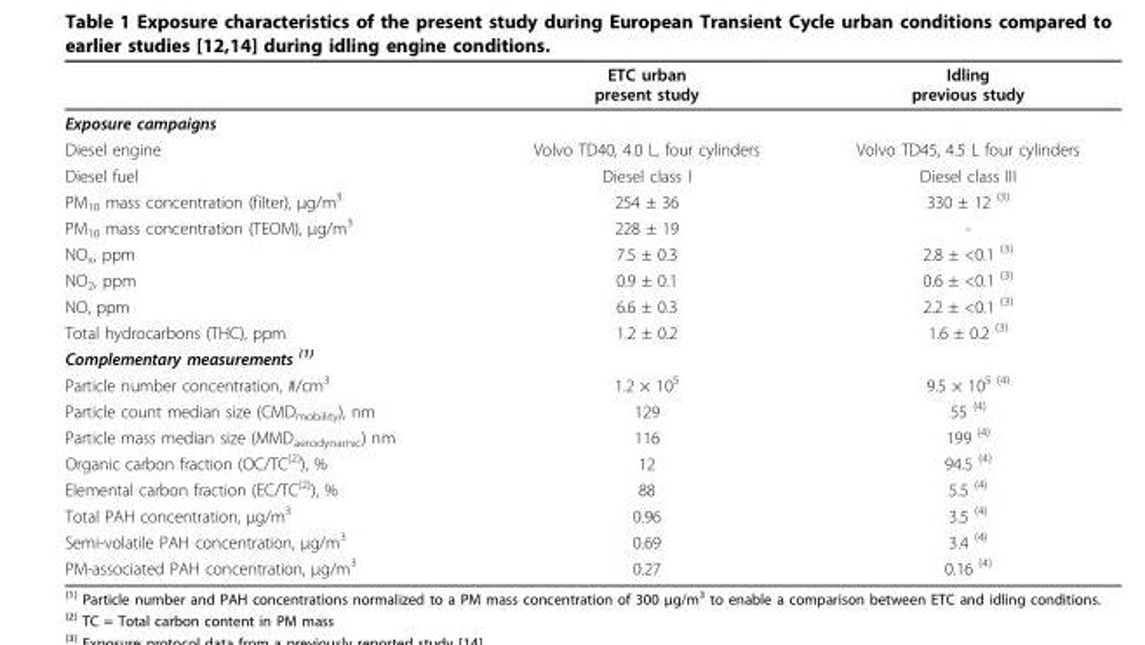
<table><thead><tr><td></td><td>ETC urban present study</td><td>Idling previous study</td></tr></thead><tbody><tr><td colspan="3">Exposure campaigns</td></tr><tr><td>Diesel engine</td><td>Volvo TD40, 4.0 L, four cylinders</td><td>Volvo TD45, 4.5 L four cylinders</td></tr><tr><td>Diesel fuel</td><td>Diesel class I</td><td>Diesel class III</td></tr><tr><td>PM<sub>10</sub> mass concentration (filter), μg/m<sup>3</sup></td><td>254 ± 36</td><td>330 ± 12 <sup>(3)</sup></td></tr><tr><td>PM<sub>10</sub> mass concentration (TEOM), μg/m<sup>3</sup></td><td>228 ± 19</td><td>-</td></tr><tr><td>NO<sub>x</sub>, ppm</td><td>7.5 ± 0.3</td><td>2.8 ± &lt;0.1 <sup>(3)</sup></td></tr><tr><td>NO<sub>2</sub>, ppm</td><td>0.9 ± 0.1</td><td>0.6 ± &lt;0.1 <sup>(3)</sup></td></tr><tr><td>NO, ppm</td><td>6.6 ± 0.3</td><td>2.2 ± &lt;0.1 <sup>(3)</sup></td></tr><tr><td>Total hydrocarbons (THC), ppm</td><td>1.2 ± 0.2</td><td>1.6 ± 0.2 <sup>(3)</sup></td></tr><tr><td colspan="3">Complementary measurements <sup>(1)</sup></td></tr><tr><td>Particle number concentration, #/cm<sup>3</sup></td><td>1.2 × 10<sup>5</sup></td><td>9.5 × 10<sup>5 (4)</sup></td></tr><tr><td>Particle count median size (CMD<sub>mobility</sub>), nm</td><td>129</td><td>55 <sup>(4)</sup></td></tr><tr><td>Particle mass median size (MMD<sub>aerodynamic</sub>) nm</td><td>116</td><td>199 <sup>(4)</sup></td></tr><tr><td>Organic carbon fraction (OC/TC<sup>(2)</sup>), %</td><td>12</td><td>94.5 <sup>(4)</sup></td></tr><tr><td>Elemental carbon fraction (EC/TC<sup>(2)</sup>), %</td><td>88</td><td>5.5 <sup>(4)</sup></td></tr><tr><td>Total PAH concentration, μg/m<sup>3</sup></td><td>0.96</td><td>3.5 <sup>(4)</sup></td></tr><tr><td>Semi-volatile PAH concentration, μg/m<sup>3</sup></td><td>0.69</td><td>3.4 <sup>(4)</sup></td></tr><tr><td>PM-associated PAH concentration, μg/m<sup>3</sup></td><td>0.27</td><td>0.16 <sup>(4)</sup></td></tr></tbody></table>